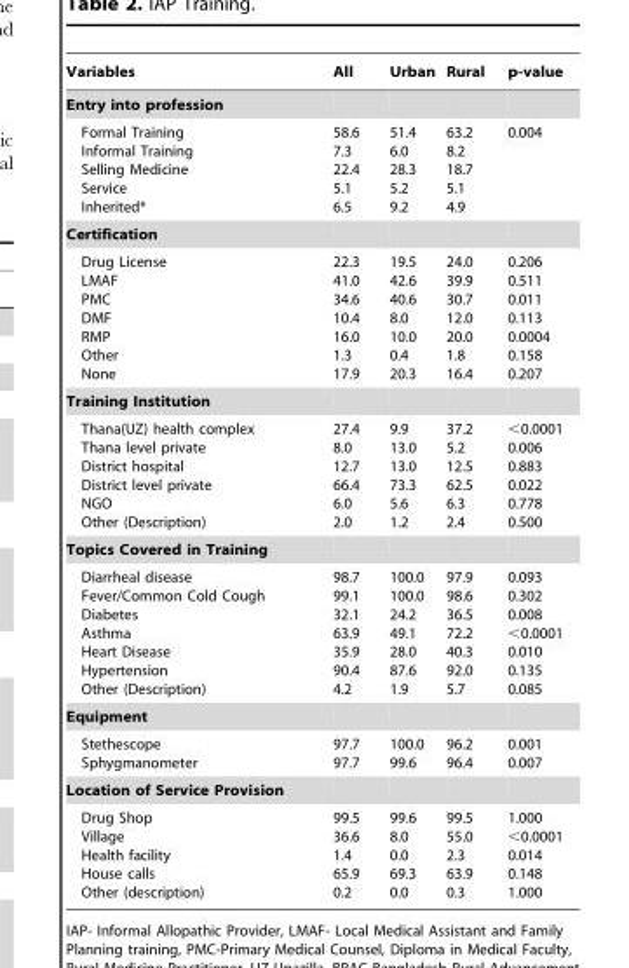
<table><thead><tr><td>Variables</td><td>All</td><td>Urban</td><td>Rural</td><td>p-value</td></tr></thead><tbody><tr><td colspan="5">Entry into profession</td></tr><tr><td>Formal Training Informal Training Selling Medicine Service Inherited*</td><td>58.6 7.3 22.4 5.1 6.5</td><td>51.4 6.0 28.3 5.2 9.2</td><td>63.2 8.2 18.7 5.1 4.9</td><td>0.004</td></tr><tr><td colspan="5">Certification</td></tr><tr><td>Drug License LMAF PMC DMF RMP Other None</td><td>22.3 41.0 34.6 10.4 16.0 1.3 17.9</td><td>19.5 42.6 40.6 8.0 10.0 0.4 20.3</td><td>24.0 39.9 30.7 12.0 20.0 1.8 16.4</td><td>0.206 0.511 0.011 0.113 0.0004 0.158 0.207</td></tr><tr><td colspan="5">Training Institution</td></tr><tr><td>Thana(UZ) health complex Thana level private District hospital District level private NGO Other (Description)</td><td>27.4 8.0 12.7 66.4 6.0 2.0</td><td>9.9 13.0 13.0 73.3 5.6 1.2</td><td>37.2 5.2 12.5 62.5 6.3 2.4</td><td>&lt;0.0001 0.006 0.883 0.022 0.778 0.500</td></tr><tr><td colspan="5">Topics Covered in Training</td></tr><tr><td>Diarrheal disease Fever/Common Cold Cough Diabetes Asthma Heart Disease Hypertension Other (Description)</td><td>98.7 99.1 32.1 63.9 35.9 90.4 4.2</td><td>100.0 100.0 24.2 49.1 28.0 87.6 1.9</td><td>97.9 98.6 36.5 72.2 40.3 92.0 5.7</td><td>0.093 0.302 0.008 &lt;0.0001 0.010 0.135 0.085</td></tr><tr><td colspan="5">Equipment</td></tr><tr><td>Stethescope Sphygmanometer</td><td>97.7 97.7</td><td>100.0 99.6</td><td>96.2 96.4</td><td>0.001 0.007</td></tr><tr><td colspan="5">Location of Service Provision</td></tr><tr><td>Drug Shop Village Health facility House calls Other (description)</td><td>99.5 36.6 1.4 65.9 0.2</td><td>99.6 8.0 0.0 69.3 0.0</td><td>99.5 55.0 2.3 63.9 0.3</td><td>1.000 &lt;0.0001 0.014 0.148 1.000</td></tr></tbody></table>